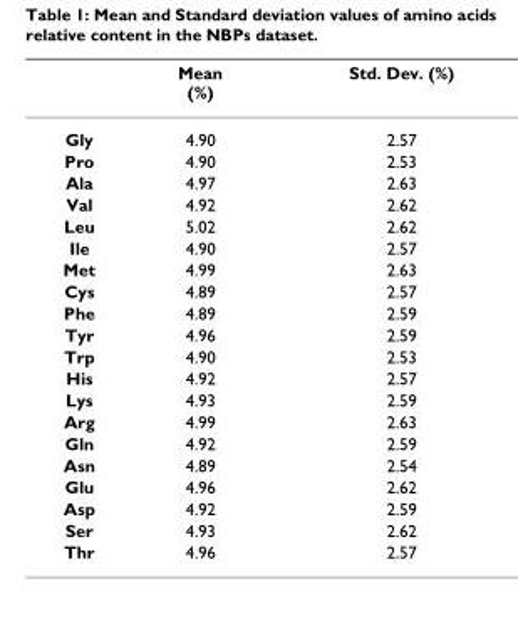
<table><thead><tr><td></td><td>Mean (%)</td><td>Std. Dev. (%)</td></tr></thead><tbody><tr><td>Gly</td><td>4.90</td><td>2.57</td></tr><tr><td>Pro</td><td>4.90</td><td>2.53</td></tr><tr><td>Ala</td><td>4.97</td><td>2.63</td></tr><tr><td>Val</td><td>4.92</td><td>2.62</td></tr><tr><td>Leu</td><td>5.02</td><td>2.62</td></tr><tr><td>Ile</td><td>4.90</td><td>2.57</td></tr><tr><td>Met</td><td>4.99</td><td>2.63</td></tr><tr><td>Cys</td><td>4.89</td><td>2.57</td></tr><tr><td>Phe</td><td>4.89</td><td>2.59</td></tr><tr><td>Tyr</td><td>4.96</td><td>2.59</td></tr><tr><td>Trp</td><td>4.90</td><td>2.53</td></tr><tr><td>His</td><td>4.92</td><td>2.57</td></tr><tr><td>Lys</td><td>4.93</td><td>2.59</td></tr><tr><td>Arg</td><td>4.99</td><td>2.63</td></tr><tr><td>Gln</td><td>4.92</td><td>2.59</td></tr><tr><td>Asn</td><td>4.89</td><td>2.54</td></tr><tr><td>Glu</td><td>4.96</td><td>2.62</td></tr><tr><td>Asp</td><td>4.92</td><td>2.59</td></tr><tr><td>Ser</td><td>4.93</td><td>2.62</td></tr><tr><td>Thr</td><td>4.96</td><td>2.57</td></tr></tbody></table>